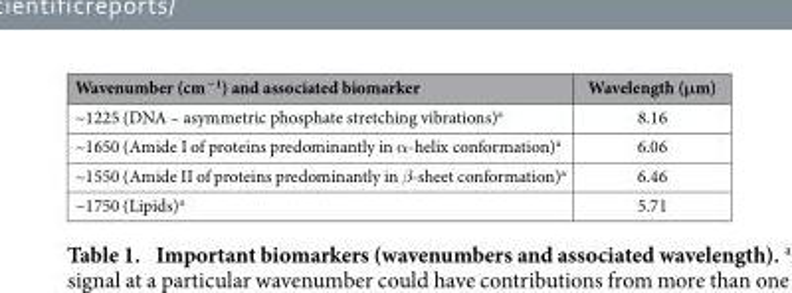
<table><thead><tr><td>Wavenumber (cm<sup>−1</sup>) and associated biomarker</td><td>Wavelength (μm)</td></tr></thead><tbody><tr><td>~1225 (DNA – asymmetric phosphate stretching vibrations)<sup>a</sup></td><td>8.16</td></tr><tr><td>~1650 (Amide I of proteins predominantly in α-helix conformation)<sup>a</sup></td><td>6.06</td></tr><tr><td>~1550 (Amide II of proteins predominantly in β-sheet conformation)<sup>a</sup></td><td>6.46</td></tr><tr><td>~1750 (Lipids)<sup>a</sup></td><td>5.71</td></tr></tbody></table>